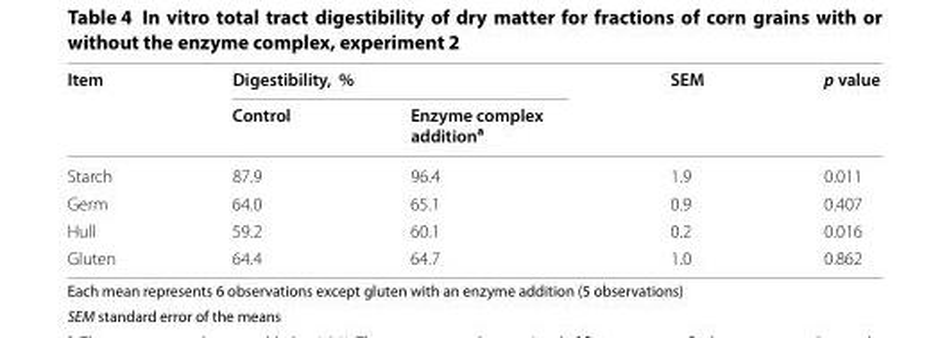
<table><thead><tr><td rowspan="2">Item</td><td colspan="2">Digestibility, %</td><td rowspan="2">SEM</td><td rowspan="2">p value</td></tr><tr><td>Control</td><td>Enzyme complex addition<sup>a</sup></td></tr></thead><tbody><tr><td>Starch</td><td>87.9</td><td>96.4</td><td>1.9</td><td>0.011</td></tr><tr><td>Germ</td><td>64.0</td><td>65.1</td><td>0.9</td><td>0.407</td></tr><tr><td>Hull</td><td>59.2</td><td>60.1</td><td>0.2</td><td>0.016</td></tr><tr><td>Gluten</td><td>64.4</td><td>64.7</td><td>1.0</td><td>0.862</td></tr></tbody></table>